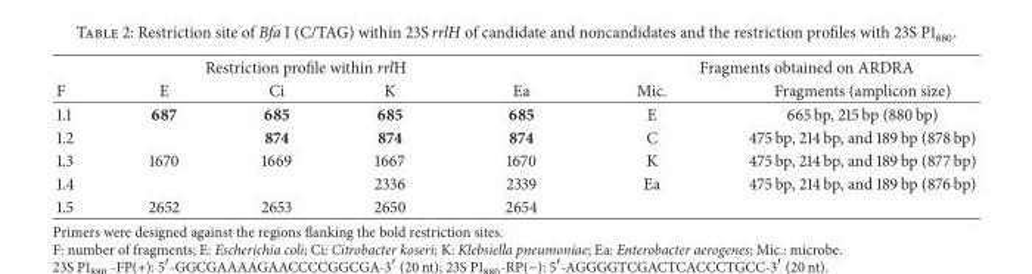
<table><thead><tr><td colspan="5">Restriction profile within rrlH</td><td colspan="2">Fragments obtained on ARDRA</td></tr><tr><td>F</td><td>E</td><td>Ci</td><td>K</td><td>Ea</td><td>Mic.</td><td>Fragments (amplicon size)</td></tr></thead><tbody><tr><td>1.1</td><td>687</td><td>685</td><td>685</td><td>685</td><td>E</td><td>665 bp, 215 bp (880 bp)</td></tr><tr><td>1.2</td><td></td><td>874</td><td>874</td><td>874</td><td>C</td><td>475 bp, 214 bp, and 189 bp (878 bp)</td></tr><tr><td>1.3</td><td>1670</td><td>1669</td><td>1667</td><td>1670</td><td>K</td><td>475 bp, 214 bp, and 189 bp (877 bp)</td></tr><tr><td>1.4</td><td></td><td></td><td>2336</td><td>2339</td><td>Ea</td><td>475 bp, 214 bp, and 189 bp (876 bp)</td></tr><tr><td>1.5</td><td>2652</td><td>2653</td><td>2650</td><td>2654</td><td></td><td></td></tr></tbody></table>